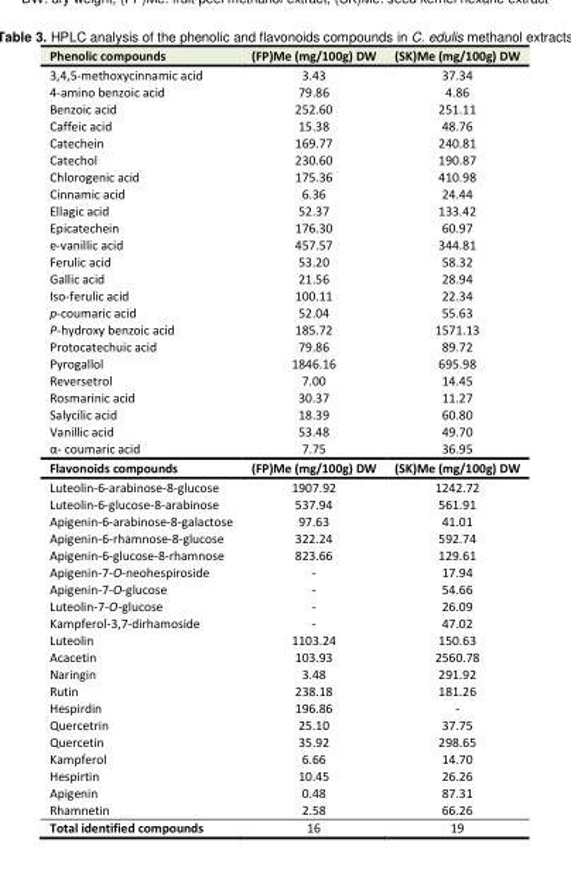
<table><tbody><tr><td>Phenolic compounds</td><td>(FP)Me (mg/100g) DW</td><td>(SK)Me (mg/100g) DW</td></tr><tr><td>3,4,5-methoxycinnamic acid</td><td>3.43</td><td>37.34</td></tr><tr><td>4-amino benzoic acid</td><td>79.86</td><td>4.86</td></tr><tr><td>Benzoic acid</td><td>252.60</td><td>251.11</td></tr><tr><td>Caffeic acid</td><td>15.38</td><td>48.76</td></tr><tr><td>Catechein</td><td>169.77</td><td>240.81</td></tr><tr><td>Catechol</td><td>230.60</td><td>190.87</td></tr><tr><td>Chlorogenic acid</td><td>175.36</td><td>410.98</td></tr><tr><td>Cinnamic acid</td><td>6.36</td><td>24.44</td></tr><tr><td>Ellagic acid</td><td>52.37</td><td>133.42</td></tr><tr><td>Epicatechein</td><td>176.30</td><td>60.97</td></tr><tr><td>e-vanillic acid</td><td>457.57</td><td>344.81</td></tr><tr><td>Ferulic acid</td><td>53.20</td><td>58.32</td></tr><tr><td>Gallic acid</td><td>21.56</td><td>28.94</td></tr><tr><td>Iso-ferulic acid</td><td>100.11</td><td>22.34</td></tr><tr><td>p-coumaric acid</td><td>52.04</td><td>55.63</td></tr><tr><td>P-hydroxy benzoic acid</td><td>185.72</td><td>1571.13</td></tr><tr><td>Protocatechuic acid</td><td>79.86</td><td>89.72</td></tr><tr><td>Pyrogallol</td><td>1846.16</td><td>695.98</td></tr><tr><td>Reversetrol</td><td>7.00</td><td>14.45</td></tr><tr><td>Rosmarinic acid</td><td>30.37</td><td>11.27</td></tr><tr><td>Salycilic acid</td><td>18.39</td><td>60.80</td></tr><tr><td>Vanillic acid</td><td>53.48</td><td>49.70</td></tr><tr><td>α- coumaric acid</td><td>7.75</td><td>36.95</td></tr><tr><td>Flavonoids compounds</td><td>(FP)Me (mg/100g) DW</td><td>(SK)Me (mg/100g) DW</td></tr><tr><td>Luteolin-6-arabinose-8-glucose</td><td>1907.92</td><td>1242.72</td></tr><tr><td>Luteolin-6-glucose-8-arabinose</td><td>537.94</td><td>561.91</td></tr><tr><td>Apigenin-6-arabinose-8-galactose</td><td>97.63</td><td>41.01</td></tr><tr><td>Apigenin-6-rhamnose-8-glucose</td><td>322.24</td><td>592.74</td></tr><tr><td>Apigenin-6-glucose-8-rhamnose</td><td>823.66</td><td>129.61</td></tr><tr><td>Apigenin-7-O-neohespiroside</td><td>-</td><td>17.94</td></tr><tr><td>Apigenin-7-O-glucose</td><td>-</td><td>54.66</td></tr><tr><td>Luteolin-7-O-glucose</td><td>-</td><td>26.09</td></tr><tr><td>Kampferol-3,7-dirhamoside</td><td>-</td><td>47.02</td></tr><tr><td>Luteolin</td><td>1103.24</td><td>150.63</td></tr><tr><td>Acacetin</td><td>103.93</td><td>2560.78</td></tr><tr><td>Naringin</td><td>3.48</td><td>291.92</td></tr><tr><td>Rutin</td><td>238.18</td><td>181.26</td></tr><tr><td>Hespirdin</td><td>196.86</td><td>-</td></tr><tr><td>Quercetrin</td><td>25.10</td><td>37.75</td></tr><tr><td>Quercetin</td><td>35.92</td><td>298.65</td></tr><tr><td>Kampferol</td><td>6.66</td><td>14.70</td></tr><tr><td>Hespirtin</td><td>10.45</td><td>26.26</td></tr><tr><td>Apigenin</td><td>0.48</td><td>87.31</td></tr><tr><td>Rhamnetin</td><td>2.58</td><td>66.26</td></tr><tr><td>Total identified compounds</td><td>16</td><td>19</td></tr></tbody></table>